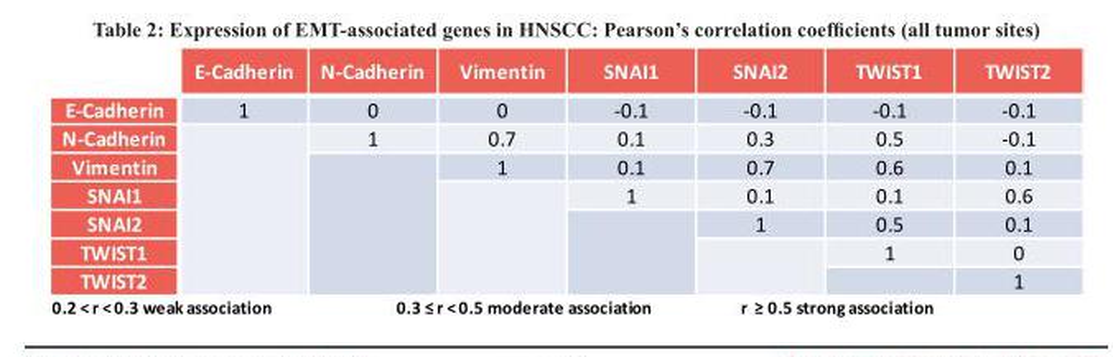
<table><thead><tr><td></td><td>E-Cadherin</td><td>N-Cadherin</td><td>Vimentin</td><td>SNAI1</td><td>SNAI2</td><td>TWIST1</td><td>TWIST2</td></tr></thead><tbody><tr><td>E-Cadherin</td><td>1</td><td>0</td><td>0</td><td>-0.1</td><td>-0.1</td><td>-0.1</td><td>-0.1</td></tr><tr><td>N-Cadherin</td><td rowspan="6"></td><td>1</td><td>0.7</td><td>0.1</td><td>0.3</td><td>0.5</td><td>-0.1</td></tr><tr><td>Vimentin</td><td rowspan="5"></td><td>1</td><td>0.1</td><td>0.7</td><td>0.6</td><td>0.1</td></tr><tr><td>SNAI1</td><td rowspan="4"></td><td>1</td><td>0.1</td><td>0.1</td><td>0.6</td></tr><tr><td>SNAI2</td><td rowspan="3"></td><td>1</td><td>0.5</td><td>0.1</td></tr><tr><td>TWIST1</td><td rowspan="2"></td><td>1</td><td>0</td></tr><tr><td>TWIST2</td><td></td><td>1</td></tr></tbody></table>